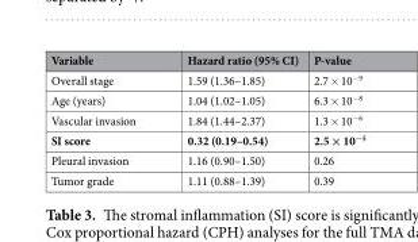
<table><thead><tr><td>Variable</td><td>Hazard ratio (95% CI)</td><td>P-value</td></tr></thead><tbody><tr><td>Overall stage</td><td>1.59 (1.36–1.85)</td><td>2.7 × 10<sup>−9</sup></td></tr><tr><td>Age (years)</td><td>1.04 (1.02–1.05)</td><td>6.3 × 10<sup>−8</sup></td></tr><tr><td>Vascular invasion</td><td>1.84 (1.44–2.37)</td><td>1.3 × 10<sup>−6</sup></td></tr><tr><td>SI score</td><td>0.32 (0.19–0.54)</td><td>2.5 × 10<sup>−5</sup></td></tr><tr><td>Pleural invasion</td><td>1.16 (0.90–1.50)</td><td>0.26</td></tr><tr><td>Tumor grade</td><td>1.11 (0.88–1.39)</td><td>0.39</td></tr></tbody></table>